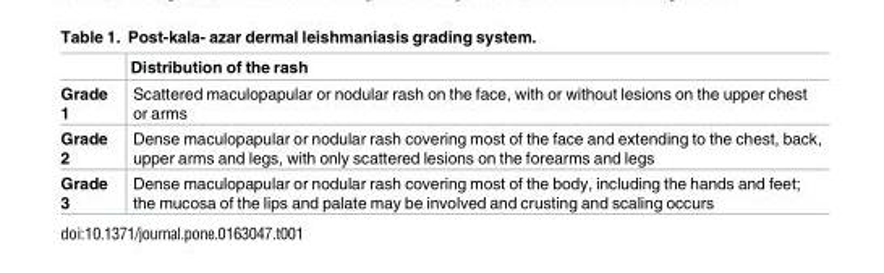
<table><thead><tr><td></td><td>Distribution of the rash</td></tr></thead><tbody><tr><td>Grade 1</td><td>Scattered maculopapular or nodular rash on the face, with or without lesions on the upper chest or arms</td></tr><tr><td>Grade 2</td><td>Dense maculopapular or nodular rash covering most of the face and extending to the chest, back, upper arms and legs, with only scattered lesions on the forearms and legs</td></tr><tr><td>Grade 3</td><td>Dense maculopapular or nodular rash covering most of the body, including the hands and feet; the mucosa of the lips and palate may be involved and crusting and scaling occurs</td></tr></tbody></table>